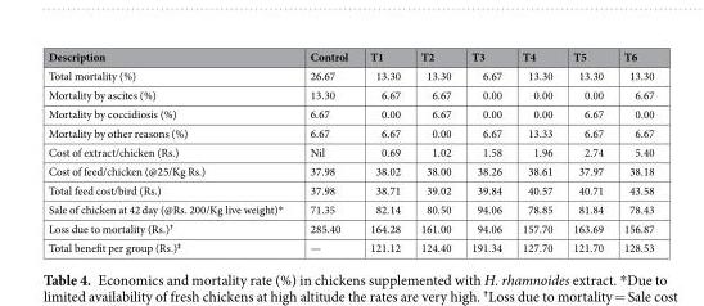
<table><thead><tr><td>Description</td><td>Control</td><td>T1</td><td>T2</td><td>T3</td><td>T4</td><td>T5</td><td>T6</td></tr></thead><tbody><tr><td>Total mortality (%)</td><td>26.67</td><td>13.30</td><td>13.30</td><td>6.67</td><td>13.30</td><td>13.30</td><td>13.30</td></tr><tr><td>Mortality by ascites (%)</td><td>13.30</td><td>6.67</td><td>6.67</td><td>0.00</td><td>0.00</td><td>0.00</td><td>6.67</td></tr><tr><td>Mortality by coccidiosis (%)</td><td>6.67</td><td>0.00</td><td>6.67</td><td>0.00</td><td>0.00</td><td>6.67</td><td>0.00</td></tr><tr><td>Mortality by other reasons (%)</td><td>6.67</td><td>6.67</td><td>0.00</td><td>6.67</td><td>13.33</td><td>6.67</td><td>6.67</td></tr><tr><td>Cost of extract/chicken (Rs.)</td><td>Nil</td><td>0.69</td><td>1.02</td><td>1.58</td><td>1.96</td><td>2.74</td><td>5.40</td></tr><tr><td>Cost of feed/chicken (@25/Kg Rs.)</td><td>37.98</td><td>38.02</td><td>38.00</td><td>38.26</td><td>38.61</td><td>37.97</td><td>38.18</td></tr><tr><td>Total feed cost/bird (Rs.)</td><td>37.98</td><td>38.71</td><td>39.02</td><td>39.84</td><td>40.57</td><td>40.71</td><td>43.58</td></tr><tr><td>Sale of chicken at 42 day (@Rs. 200/Kg live weight)*</td><td>71.35</td><td>82.14</td><td>80.50</td><td>94.06</td><td>78.85</td><td>81.84</td><td>78.43</td></tr><tr><td>Loss due to mortality (Rs.)<sup>†</sup></td><td>285.40</td><td>164.28</td><td>161.00</td><td>94.06</td><td>157.70</td><td>163.69</td><td>156.87</td></tr><tr><td>Total benefit per group (Rs.)<sup>‡</sup></td><td>—</td><td>121.12</td><td>124.40</td><td>191.34</td><td>127.70</td><td>121.70</td><td>128.53</td></tr></tbody></table>